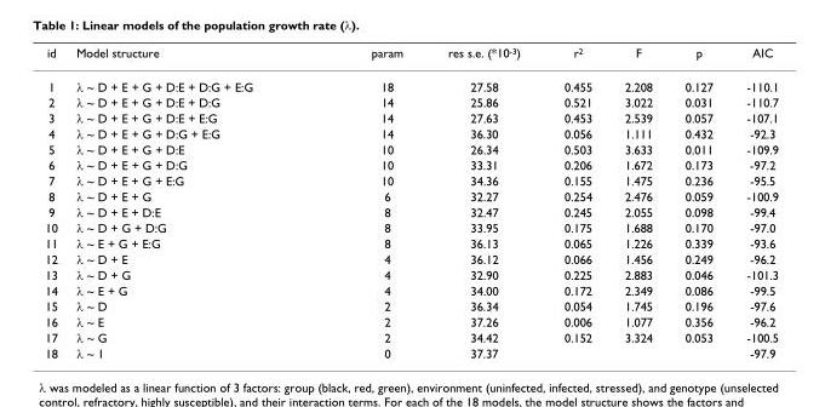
<table><thead><tr><td>id</td><td>Model structure</td><td>param</td><td>res s.e. (*10<sup>-3</sup>)</td><td>r<sup>2</sup></td><td>F</td><td>p</td><td>AIC</td></tr></thead><tbody><tr><td>1</td><td>λ ~ D + E + G + D:E + D:G + E:G</td><td>18</td><td>27.58</td><td>0.455</td><td>2.208</td><td>0.127</td><td>-110.1</td></tr><tr><td>2</td><td>λ ~ D + E + G + D:E + D:G</td><td>14</td><td>25.86</td><td>0.521</td><td>3.022</td><td>0.031</td><td>-110.7</td></tr><tr><td>3</td><td>λ ~ D + E + G + D:E + E:G</td><td>14</td><td>27.63</td><td>0.453</td><td>2.539</td><td>0.057</td><td>-107.1</td></tr><tr><td>4</td><td>λ ~ D + E + G + D:G + E:G</td><td>14</td><td>36.30</td><td>0.056</td><td>1.111</td><td>0.432</td><td>-92.3</td></tr><tr><td>5</td><td>λ ~ D + E + G + D:E</td><td>10</td><td>26.34</td><td>0.503</td><td>3.633</td><td>0.011</td><td>-109.9</td></tr><tr><td>6</td><td>λ ~ D + E + G + D:G</td><td>10</td><td>33.31</td><td>0.206</td><td>1.672</td><td>0.173</td><td>-97.2</td></tr><tr><td>7</td><td>λ ~ D + E + G + E:G</td><td>10</td><td>34.36</td><td>0.155</td><td>1.475</td><td>0.236</td><td>-95.5</td></tr><tr><td>8</td><td>λ ~ D + E + G</td><td>6</td><td>32.27</td><td>0.254</td><td>2.476</td><td>0.059</td><td>-100.9</td></tr><tr><td>9</td><td>λ ~ D + E + D:E</td><td>8</td><td>32.47</td><td>0.245</td><td>2.055</td><td>0.098</td><td>-99.4</td></tr><tr><td>10</td><td>λ ~ D + G + D:G</td><td>8</td><td>33.95</td><td>0.175</td><td>1.688</td><td>0.170</td><td>-97.0</td></tr><tr><td>11</td><td>λ ~ E + G + E:G</td><td>8</td><td>36.13</td><td>0.065</td><td>1.226</td><td>0.339</td><td>-93.6</td></tr><tr><td>12</td><td>λ ~ D + E</td><td>4</td><td>36.12</td><td>0.066</td><td>1.456</td><td>0.249</td><td>-96.2</td></tr><tr><td>13</td><td>λ ~ D + G</td><td>4</td><td>32.90</td><td>0.225</td><td>2.883</td><td>0.046</td><td>-101.3</td></tr><tr><td>14</td><td>λ ~ E + G</td><td>4</td><td>34.00</td><td>0.172</td><td>2.349</td><td>0.086</td><td>-99.5</td></tr><tr><td>15</td><td>λ ~ D</td><td>2</td><td>36.34</td><td>0.054</td><td>1.745</td><td>0.196</td><td>-97.6</td></tr><tr><td>16</td><td>λ ~ E</td><td>2</td><td>37.26</td><td>0.006</td><td>1.077</td><td>0.356</td><td>-96.2</td></tr><tr><td>17</td><td>λ ~ G</td><td>2</td><td>34.42</td><td>0.152</td><td>3.324</td><td>0.053</td><td>-100.5</td></tr><tr><td>18</td><td>λ ~ 1</td><td>0</td><td>37.37</td><td></td><td></td><td></td><td>-97.9</td></tr></tbody></table>